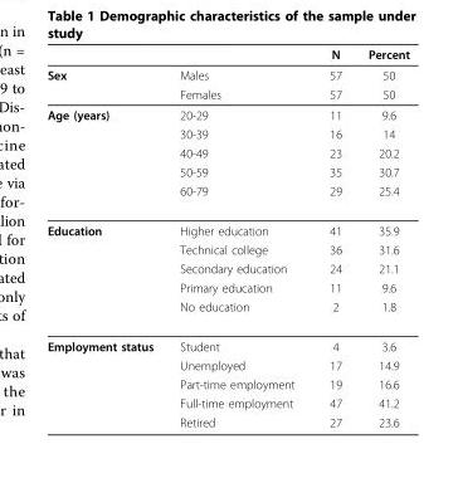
<table><thead><tr><td></td><td></td><td>N</td><td>Percent</td></tr></thead><tbody><tr><td rowspan="2">Sex</td><td>Males</td><td>57</td><td>50</td></tr><tr><td>Females</td><td>57</td><td>50</td></tr><tr><td rowspan="5">Age (years)</td><td>20-29</td><td>11</td><td>9.6</td></tr><tr><td>30-39</td><td>16</td><td>14</td></tr><tr><td>40-49</td><td>23</td><td>20.2</td></tr><tr><td>50-59</td><td>35</td><td>30.7</td></tr><tr><td>60-79</td><td>29</td><td>25.4</td></tr><tr><td rowspan="5">Education</td><td>Higher education</td><td>41</td><td>35.9</td></tr><tr><td>Technical college</td><td>36</td><td>31.6</td></tr><tr><td>Secondary education</td><td>24</td><td>21.1</td></tr><tr><td>Primary education</td><td>11</td><td>9.6</td></tr><tr><td>No education</td><td>2</td><td>1.8</td></tr><tr><td rowspan="5">Employment status</td><td>Student</td><td>4</td><td>3.6</td></tr><tr><td>Unemployed</td><td>17</td><td>14.9</td></tr><tr><td>Part-time employment</td><td>19</td><td>16.6</td></tr><tr><td>Full-time employment</td><td>47</td><td>41.2</td></tr><tr><td>Retired</td><td>27</td><td>23.6</td></tr></tbody></table>